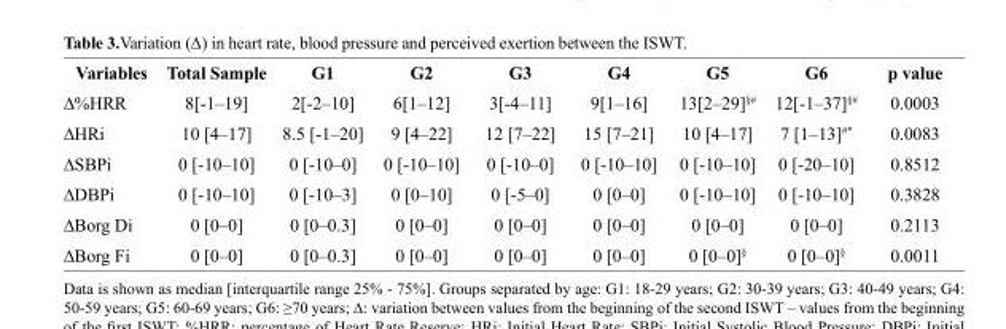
<table><thead><tr><td>Variables</td><td>Total Sample</td><td>G1</td><td>G2</td><td>G3</td><td>G4</td><td>G5</td><td>G6</td><td>p value</td></tr></thead><tbody><tr><td>∆%HRR</td><td>8[-1–19]</td><td>2[-2–10]</td><td>6[1–12]</td><td>3[-4–11]</td><td>9[1–16]</td><td>13[2–29]<sup>§#</sup></td><td>12[-1–37]<sup>§#</sup></td><td>0.0003</td></tr><tr><td>∆HRi</td><td>10 [4–17]</td><td>8.5 [-1–20]</td><td>9 [4–22]</td><td>12 [7–22]</td><td>15 [7–21]</td><td>10 [4–17]</td><td>7 [1–13]<sup>#*</sup></td><td>0.0083</td></tr><tr><td>∆SBPi</td><td>0 [-10–10]</td><td>0 [-10–0]</td><td>0 [-10–10]</td><td>0 [-10–0]</td><td>0 [-10–10]</td><td>0 [-10–10]</td><td>0 [-20–10]</td><td>0.8512</td></tr><tr><td>∆DBPi</td><td>0 [-10–10]</td><td>0 [-10–3]</td><td>0 [0–10]</td><td>0 [-5–0]</td><td>0 [0–0]</td><td>0 [-10–10]</td><td>0 [-10–10]</td><td>0.3828</td></tr><tr><td>∆Borg Di</td><td>0 [0–0]</td><td>0 [0–0.3]</td><td>0 [0–0]</td><td>0 [0–0]</td><td>0 [0–0]</td><td>0 [0–0]</td><td>0 [0–0]</td><td>0.2113</td></tr><tr><td>∆Borg Fi</td><td>0 [0–0]</td><td>0 [0–0.3]</td><td>0 [0–0]</td><td>0 [0–0]</td><td>0 [0–0]</td><td>0 [0–0]<sup>§</sup></td><td>0 [0–0]<sup>§</sup></td><td>0.0011</td></tr></tbody></table>